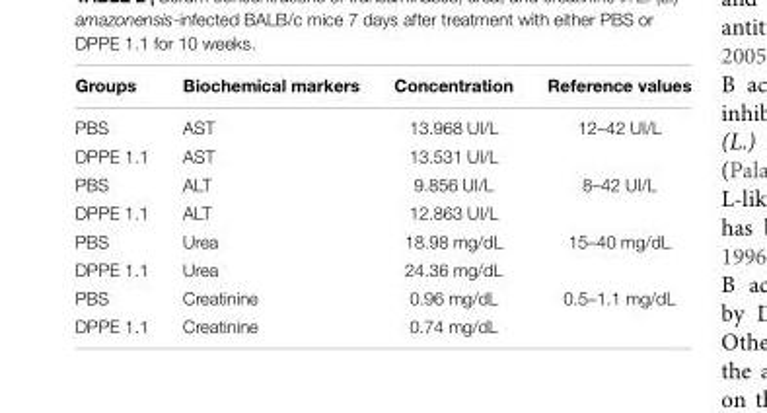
<table><thead><tr><td>Groups</td><td>Biochemical markers</td><td>Concentration</td><td>Reference values</td></tr></thead><tbody><tr><td>PBS</td><td>AST</td><td>13.968 UI/L</td><td>12–42 UI/L</td></tr><tr><td>DPPE 1.1</td><td>AST</td><td>13.531 UI/L</td><td></td></tr><tr><td>PBS</td><td>ALT</td><td>9.856 UI/L</td><td>8–42 UI/L</td></tr><tr><td>DPPE 1.1</td><td>ALT</td><td>12.863 UI/L</td><td></td></tr><tr><td>PBS</td><td>Urea</td><td>18.98 mg/dL</td><td>15–40 mg/dL</td></tr><tr><td>DPPE 1.1</td><td>Urea</td><td>24.36 mg/dL</td><td></td></tr><tr><td>PBS</td><td>Creatinine</td><td>0.96 mg/dL</td><td>0.5–1.1 mg/dL</td></tr><tr><td>DPPE 1.1</td><td>Creatinine</td><td>0.74 mg/dL</td><td></td></tr></tbody></table>